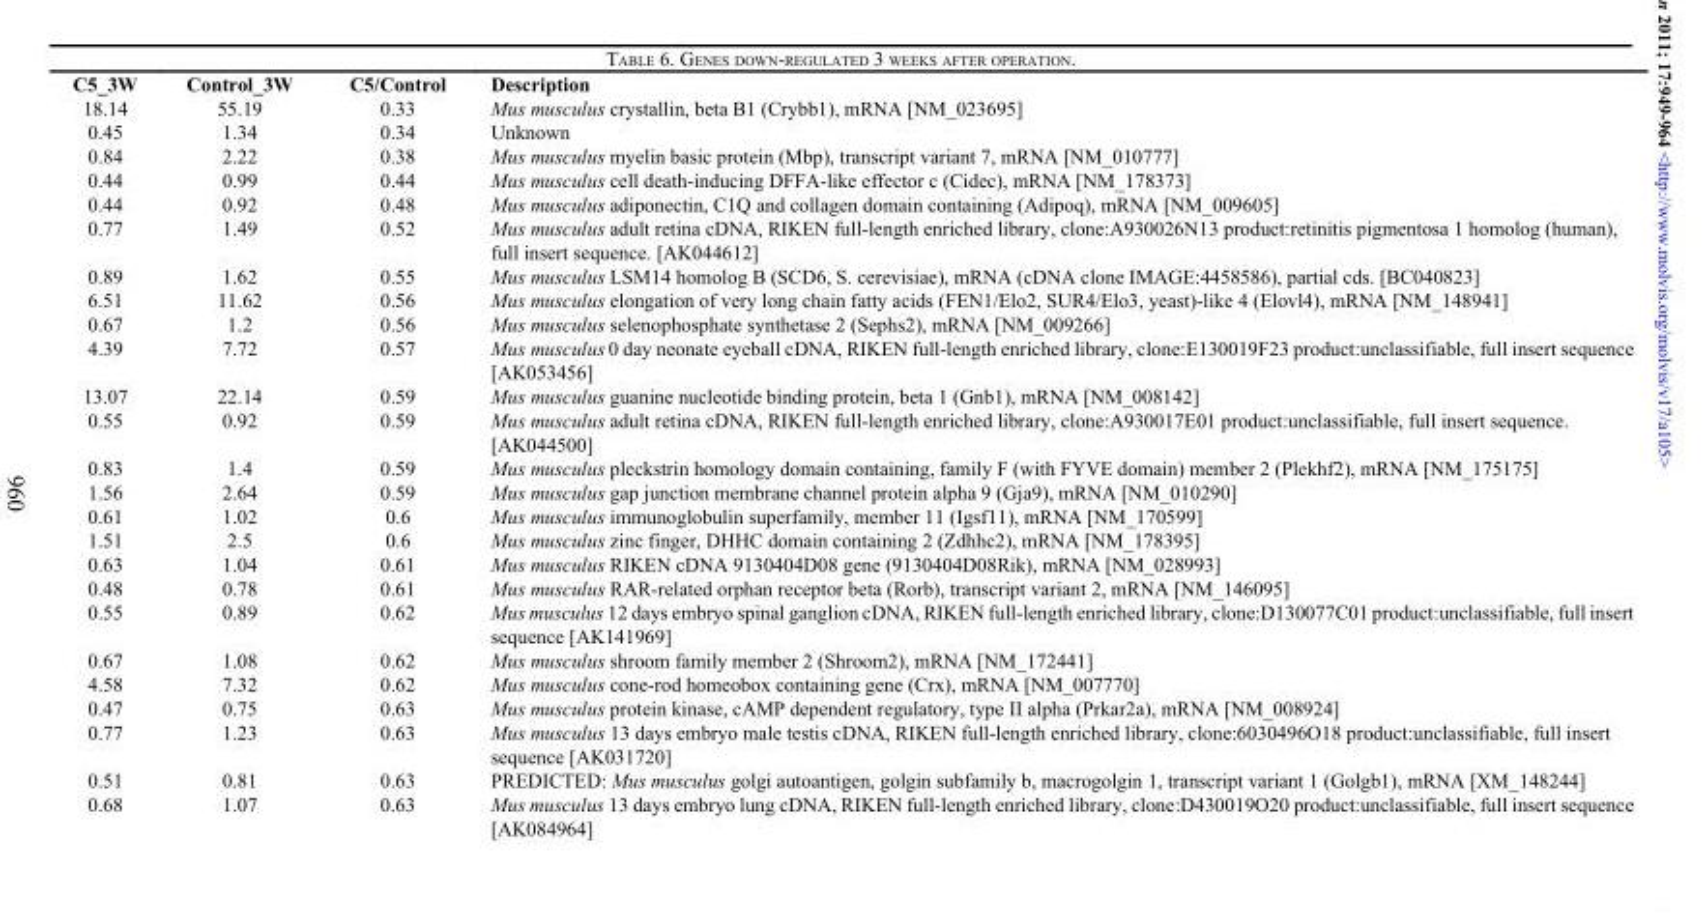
<table><thead><tr><td>C5_3W</td><td>Control_3W</td><td>C5/Control</td><td>Description</td></tr></thead><tbody><tr><td>18.14</td><td>55.19</td><td>0.33</td><td>Mus musculus crystallin, beta B1 (Crybb1), mRNA [NM_023695]</td></tr><tr><td>0.45</td><td>1.34</td><td>0.34</td><td>Unknown</td></tr><tr><td>0.84</td><td>2.22</td><td>0.38</td><td>Mus musculus myelin basic protein (Mbp), transcript variant 7, mRNA [NM_010777]</td></tr><tr><td>0.44</td><td>0.99</td><td>0.44</td><td>Mus musculus cell death-inducing DFFA-like effector c (Cidec), mRNA [NM_178373]</td></tr><tr><td>0.44</td><td>0.92</td><td>0.48</td><td>Mus musculus adiponectin, C1Q and collagen domain containing (Adipoq), mRNA [NM_009605]</td></tr><tr><td>0.77</td><td>1.49</td><td>0.52</td><td>Mus musculus adult retina cDNA, RIKEN full-length enriched library, clone:A930026N13 product:retinitis pigmentosa 1 homolog (human), full insert sequence. [AK044612]</td></tr><tr><td>0.89</td><td>1.62</td><td>0.55</td><td>Mus musculus LSM14 homolog B (SCD6, S. cerevisiae), mRNA (cDNA clone IMAGE:4458586), partial cds. [BC040823]</td></tr><tr><td>6.51</td><td>11.62</td><td>0.56</td><td>Mus musculus elongation of very long chain fatty acids (FEN1/Elo2, SUR4/Elo3, yeast)-like 4 (Elovl4), mRNA [NM_148941]</td></tr><tr><td>0.67</td><td>1.2</td><td>0.56</td><td>Mus musculus selenophosphate synthetase 2 (Sephs2), mRNA [NM_009266]</td></tr><tr><td>4.39</td><td>7.72</td><td>0.57</td><td>Mus musculus 0 day neonate eyeball cDNA, RIKEN full-length enriched library, clone:E130019F23 product:unclassifiable, full insert sequence [AK053456]</td></tr><tr><td>13.07</td><td>22.14</td><td>0.59</td><td>Mus musculus guanine nucleotide binding protein, beta 1 (Gnb1), mRNA [NM_008142]</td></tr><tr><td>0.55</td><td>0.92</td><td>0.59</td><td>Mus musculus adult retina cDNA, RIKEN full-length enriched library, clone:A930017E01 product:unclassifiable, full insert sequence. [AK044500]</td></tr><tr><td>0.83</td><td>1.4</td><td>0.59</td><td>Mus musculus pleckstrin homology domain containing, family F (with FYVE domain) member 2 (Plekhf2), mRNA [NM_175175]</td></tr><tr><td>1.56</td><td>2.64</td><td>0.59</td><td>Mus musculus gap junction membrane channel protein alpha 9 (Gja9), mRNA [NM_010290]</td></tr><tr><td>0.61</td><td>1.02</td><td>0.6</td><td>Mus musculus immunoglobulin superfamily, member 11 (Igsf11), mRNA [NM_170599]</td></tr><tr><td>1.51</td><td>2.5</td><td>0.6</td><td>Mus musculus zinc finger, DHHC domain containing 2 (Zdhhc2), mRNA [NM_178395]</td></tr><tr><td>0.63</td><td>1.04</td><td>0.61</td><td>Mus musculus RIKEN cDNA 9130404D08 gene (9130404D08Rik), mRNA [NM_028993]</td></tr><tr><td>0.48</td><td>0.78</td><td>0.61</td><td>Mus musculus RAR-related orphan receptor beta (Rorb), transcript variant 2, mRNA [NM_146095]</td></tr><tr><td>0.55</td><td>0.89</td><td>0.62</td><td>Mus musculus 12 days embryo spinal ganglion cDNA, RIKEN full-length enriched library, clone:D130077C01 product:unclassifiable, full insert sequence [AK141969]</td></tr><tr><td>0.67</td><td>1.08</td><td>0.62</td><td>Mus musculus shroom family member 2 (Shroom2), mRNA [NM_172441]</td></tr><tr><td>4.58</td><td>7.32</td><td>0.62</td><td>Mus musculus cone-rod homeobox containing gene (Crx), mRNA [NM_007770]</td></tr><tr><td>0.47</td><td>0.75</td><td>0.63</td><td>Mus musculus protein kinase, cAMP dependent regulatory, type II alpha (Prkar2a), mRNA [NM_008924]</td></tr><tr><td>0.77</td><td>1.23</td><td>0.63</td><td>Mus musculus 13 days embryo male testis cDNA, RIKEN full-length enriched library, clone:6030496O18 product:unclassifiable, full insert sequence [AK031720]</td></tr><tr><td>0.51</td><td>0.81</td><td>0.63</td><td>PREDICTED: Mus musculus golgi autoantigen, golgin subfamily b, macrogolgin 1, transcript variant 1 (Golgb1), mRNA [XM_148244]</td></tr><tr><td>0.68</td><td>1.07</td><td>0.63</td><td>Mus musculus 13 days embryo lung cDNA, RIKEN full-length enriched library, clone:D430019O20 product:unclassifiable, full insert sequence [AK084964]</td></tr></tbody></table>